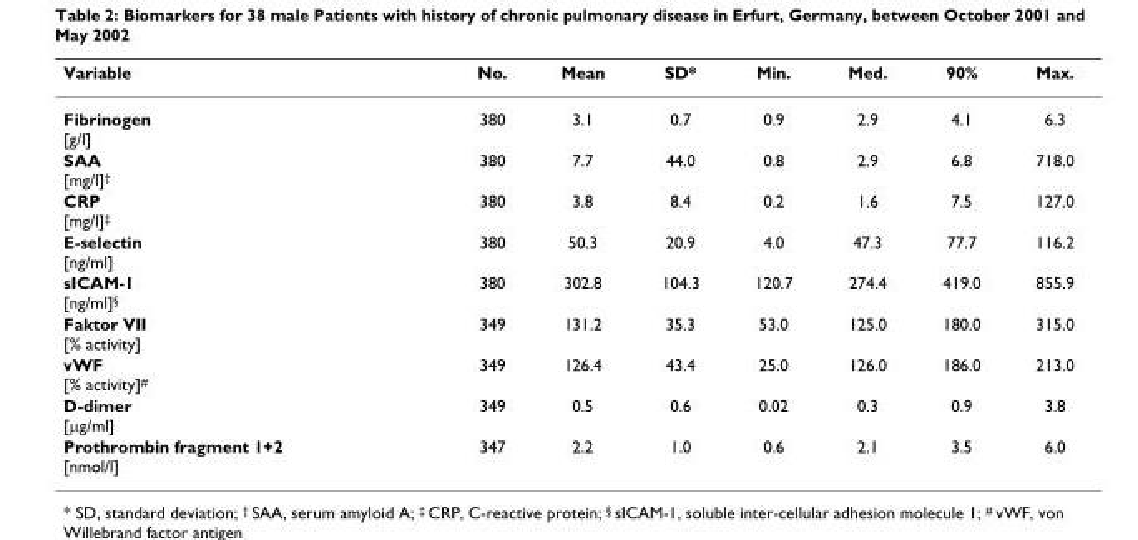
<table><thead><tr><td>Variable</td><td>No.</td><td>Mean</td><td>SD*</td><td>Min.</td><td>Med.</td><td>90%</td><td>Max.</td></tr></thead><tbody><tr><td>Fibrinogen [g/l]</td><td>380</td><td>3.1</td><td>0.7</td><td>0.9</td><td>2.9</td><td>4.1</td><td>6.3</td></tr><tr><td>SAA [mg/l]<sup>†</sup></td><td>380</td><td>7.7</td><td>44.0</td><td>0.8</td><td>2.9</td><td>6.8</td><td>718.0</td></tr><tr><td>CRP [mg/l]<sup>‡</sup></td><td>380</td><td>3.8</td><td>8.4</td><td>0.2</td><td>1.6</td><td>7.5</td><td>127.0</td></tr><tr><td>E-selectin [ng/ml]</td><td>380</td><td>50.3</td><td>20.9</td><td>4.0</td><td>47.3</td><td>77.7</td><td>116.2</td></tr><tr><td>sICAM-1 [ng/ml]<sup>§</sup></td><td>380</td><td>302.8</td><td>104.3</td><td>120.7</td><td>274.4</td><td>419.0</td><td>855.9</td></tr><tr><td>Faktor VII [% activity]</td><td>349</td><td>131.2</td><td>35.3</td><td>53.0</td><td>125.0</td><td>180.0</td><td>315.0</td></tr><tr><td>vWF [% activity]<sup>#</sup></td><td>349</td><td>126.4</td><td>43.4</td><td>25.0</td><td>126.0</td><td>186.0</td><td>213.0</td></tr><tr><td>D-dimer [μg/ml]</td><td>349</td><td>0.5</td><td>0.6</td><td>0.02</td><td>0.3</td><td>0.9</td><td>3.8</td></tr><tr><td>Prothrombin fragment 1+2 [nmol/l]</td><td>347</td><td>2.2</td><td>1.0</td><td>0.6</td><td>2.1</td><td>3.5</td><td>6.0</td></tr></tbody></table>